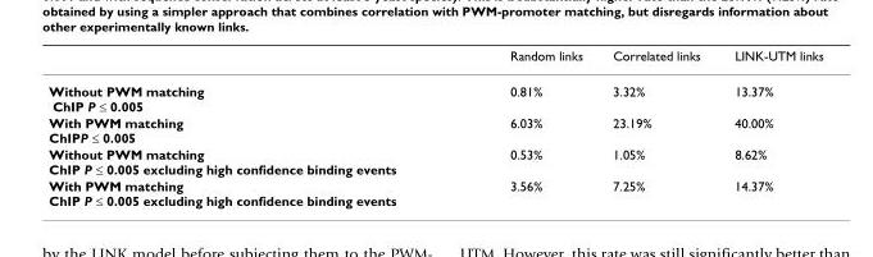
<table><thead><tr><td></td><td>Random links</td><td>Correlated links</td><td>LINK-UTM links</td></tr></thead><tbody><tr><td>Without PWM matching ChIP P ≤ 0.005</td><td>0.81%</td><td>3.32%</td><td>13.37%</td></tr><tr><td>With PWM matching ChIPP ≤ 0.005</td><td>6.03%</td><td>23.19%</td><td>40.00%</td></tr><tr><td>Without PWM matching ChIP P ≤ 0.005 excluding high confidence binding events</td><td>0.53%</td><td>1.05%</td><td>8.62%</td></tr><tr><td>With PWM matching ChIP P ≤ 0.005 excluding high confidence binding events</td><td>3.56%</td><td>7.25%</td><td>14.37%</td></tr></tbody></table>